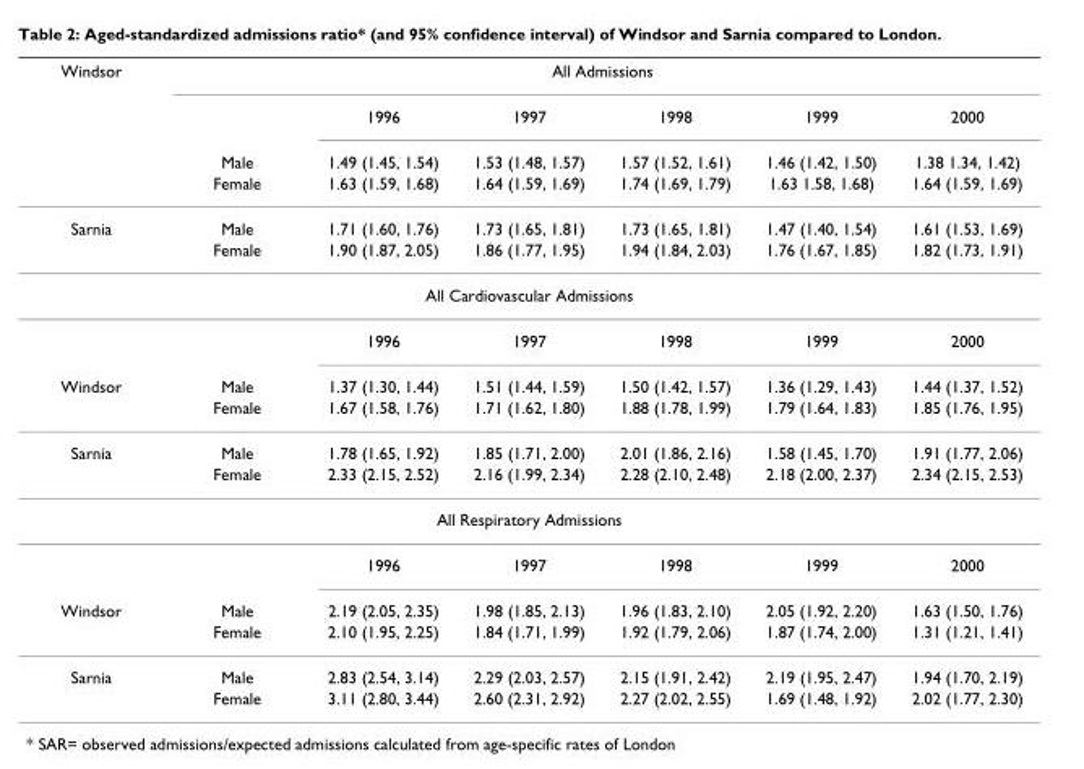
<table><thead><tr><td rowspan="4">Windsor</td><td colspan="6">All Admissions</td></tr><tr><td rowspan="3">Male Female</td><td rowspan="3">1996 1.49 (1.45, 1.54) 1.63 (1.59, 1.68)</td><td rowspan="3">1997 1.53 (1.48, 1.57) 1.64 (1.59, 1.69)</td><td rowspan="3">1998 1.57 (1.52, 1.61) 1.74 (1.69, 1.79)</td><td rowspan="3">1999 1.46 (1.42, 1.50) 1.63 1.58, 1.68)</td><td rowspan="3">2000 1.38 1.34, 1.42) 1.64 (1.59, 1.69)</td></tr><tr></tr><tr></tr></thead><tbody><tr><td rowspan="2">Sarnia</td><td>Male</td><td>1.71 (1.60, 1.76)</td><td>1.73 (1.65, 1.81)</td><td>1.73 (1.65, 1.81)</td><td>1.47 (1.40, 1.54)</td><td>1.61 (1.53, 1.69)</td></tr><tr><td>Female</td><td>1.90 (1.87, 2.05)</td><td>1.86 (1.77, 1.95)</td><td>1.94 (1.84, 2.03)</td><td>1.76 (1.67, 1.85)</td><td>1.82 (1.73, 1.91)</td></tr><tr><td colspan="7">All Cardiovascular Admissions</td></tr><tr><td></td><td></td><td>1996</td><td>1997</td><td>1998</td><td>1999</td><td>2000</td></tr><tr><td rowspan="2">Windsor</td><td>Male</td><td>1.37 (1.30, 1.44)</td><td>1.51 (1.44, 1.59)</td><td>1.50 (1.42, 1.57)</td><td>1.36 (1.29, 1.43)</td><td>1.44 (1.37, 1.52)</td></tr><tr><td>Female</td><td>1.67 (1.58, 1.76)</td><td>1.71 (1.62, 1.80)</td><td>1.88 (1.78, 1.99)</td><td>1.79 (1.64, 1.83)</td><td>1.85 (1.76, 1.95)</td></tr><tr><td rowspan="2">Sarnia</td><td>Male</td><td>1.78 (1.65, 1.92)</td><td>1.85 (1.71, 2.00)</td><td>2.01 (1.86, 2.16)</td><td>1.58 (1.45, 1.70)</td><td>1.91 (1.77, 2.06)</td></tr><tr><td>Female</td><td>2.33 (2.15, 2.52)</td><td>2.16 (1.99, 2.34)</td><td>2.28 (2.10, 2.48)</td><td>2.18 (2.00, 2.37)</td><td>2.34 (2.15, 2.53)</td></tr><tr><td colspan="7">All Respiratory Admissions</td></tr><tr><td></td><td></td><td>1996</td><td>1997</td><td>1998</td><td>1999</td><td>2000</td></tr><tr><td rowspan="2">Windsor</td><td>Male</td><td>2.19 (2.05, 2.35)</td><td>1.98 (1.85, 2.13)</td><td>1.96 (1.83, 2.10)</td><td>2.05 (1.92, 2.20)</td><td>1.63 (1.50, 1.76)</td></tr><tr><td>Female</td><td>2.10 (1.95, 2.25)</td><td>1.84 (1.71, 1.99)</td><td>1.92 (1.79, 2.06)</td><td>1.87 (1.74, 2.00)</td><td>1.31 (1.21, 1.41)</td></tr><tr><td rowspan="2">Sarnia</td><td>Male</td><td>2.83 (2.54, 3.14)</td><td>2.29 (2.03, 2.57)</td><td>2.15 (1.91, 2.42)</td><td>2.19 (1.95, 2.47)</td><td>1.94 (1.70, 2.19)</td></tr><tr><td>Female</td><td>3.11 (2.80, 3.44)</td><td>2.60 (2.31, 2.92)</td><td>2.27 (2.02, 2.55)</td><td>1.69 (1.48, 1.92)</td><td>2.02 (1.77, 2.30)</td></tr></tbody></table>